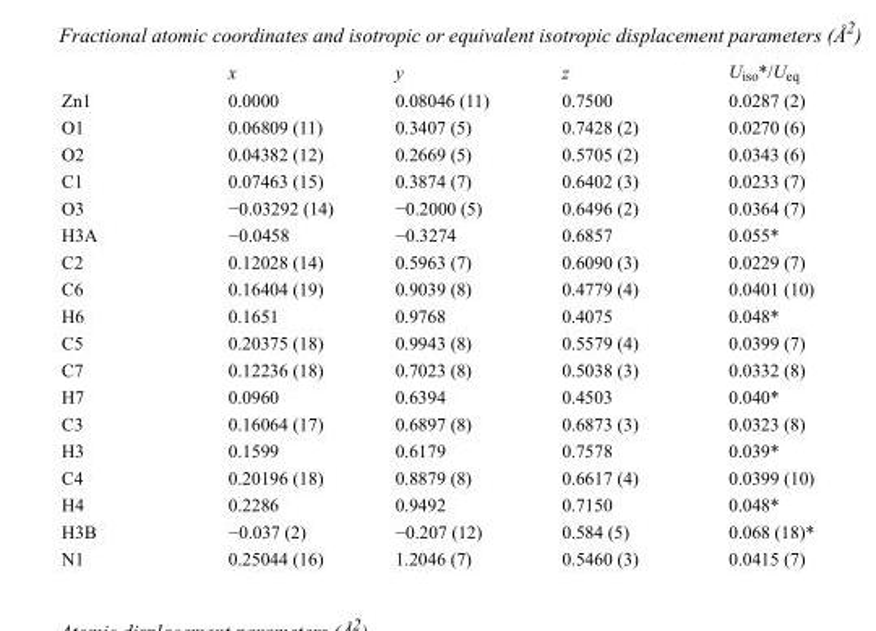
<table><thead><tr><td></td><td>x</td><td>y</td><td>z</td><td>U<sub>iso</sub>*/U<sub>eq</sub></td></tr></thead><tbody><tr><td>Zn1</td><td>0.0000</td><td>0.08046 (11)</td><td>0.7500</td><td>0.0287 (2)</td></tr><tr><td>O1</td><td>0.06809 (11)</td><td>0.3407 (5)</td><td>0.7428 (2)</td><td>0.0270 (6)</td></tr><tr><td>O2</td><td>0.04382 (12)</td><td>0.2669 (5)</td><td>0.5705 (2)</td><td>0.0343 (6)</td></tr><tr><td>C1</td><td>0.07463 (15)</td><td>0.3874 (7)</td><td>0.6402 (3)</td><td>0.0233 (7)</td></tr><tr><td>O3</td><td>−0.03292 (14)</td><td>−0.2000 (5)</td><td>0.6496 (2)</td><td>0.0364 (7)</td></tr><tr><td>H3A</td><td>−0.0458</td><td>−0.3274</td><td>0.6857</td><td>0.055*</td></tr><tr><td>C2</td><td>0.12028 (14)</td><td>0.5963 (7)</td><td>0.6090 (3)</td><td>0.0229 (7)</td></tr><tr><td>C6</td><td>0.16404 (19)</td><td>0.9039 (8)</td><td>0.4779 (4)</td><td>0.0401 (10)</td></tr><tr><td>H6</td><td>0.1651</td><td>0.9768</td><td>0.4075</td><td>0.048*</td></tr><tr><td>C5</td><td>0.20375 (18)</td><td>0.9943 (8)</td><td>0.5579 (4)</td><td>0.0399 (7)</td></tr><tr><td>C7</td><td>0.12236 (18)</td><td>0.7023 (8)</td><td>0.5038 (3)</td><td>0.0332 (8)</td></tr><tr><td>H7</td><td>0.0960</td><td>0.6394</td><td>0.4503</td><td>0.040*</td></tr><tr><td>C3</td><td>0.16064 (17)</td><td>0.6897 (8)</td><td>0.6873 (3)</td><td>0.0323 (8)</td></tr><tr><td>H3</td><td>0.1599</td><td>0.6179</td><td>0.7578</td><td>0.039*</td></tr><tr><td>C4</td><td>0.20196 (18)</td><td>0.8879 (8)</td><td>0.6617 (4)</td><td>0.0399 (10)</td></tr><tr><td>H4</td><td>0.2286</td><td>0.9492</td><td>0.7150</td><td>0.048*</td></tr><tr><td>H3B</td><td>−0.037 (2)</td><td>−0.207 (12)</td><td>0.584 (5)</td><td>0.068 (18)*</td></tr><tr><td>N1</td><td>0.25044 (16)</td><td>1.2046 (7)</td><td>0.5460 (3)</td><td>0.0415 (7)</td></tr></tbody></table>